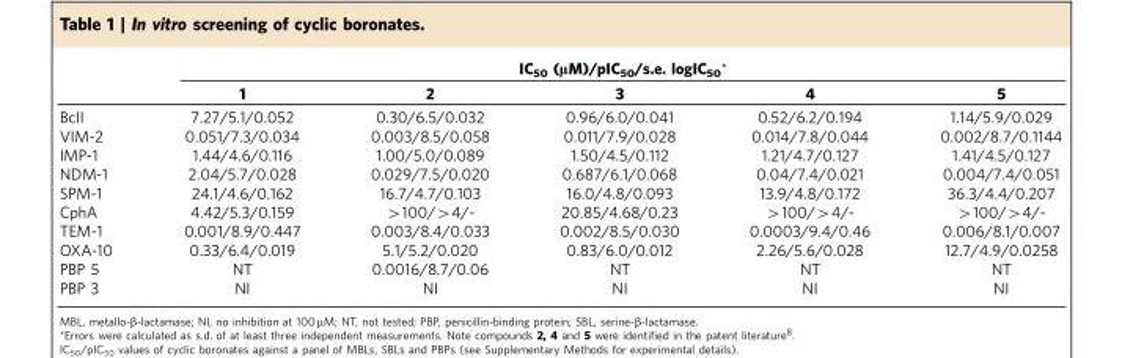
<table><thead><tr><td rowspan="2"></td><td colspan="5">IC<sub>50</sub> (μM)/pIC<sub>50</sub>/s.e. logIC<sub>50</sub>*</td></tr><tr><td>1</td><td>2</td><td>3</td><td>4</td><td>5</td></tr></thead><tbody><tr><td>BcII</td><td>7.27/5.1/0.052</td><td>0.30/6.5/0.032</td><td>0.96/6.0/0.041</td><td>0.52/6.2/0.194</td><td>1.14/5.9/0.029</td></tr><tr><td>VIM-2</td><td>0.051/7.3/0.034</td><td>0.003/8.5/0.058</td><td>0.011/7.9/0.028</td><td>0.014/7.8/0.044</td><td>0.002/8.7/0.1144</td></tr><tr><td>IMP-1</td><td>1.44/4.6/0.116</td><td>1.00/5.0/0.089</td><td>1.50/4.5/0.112</td><td>1.21/4.7/0.127</td><td>1.41/4.5/0.127</td></tr><tr><td>NDM-1</td><td>2.04/5.7/0.028</td><td>0.029/7.5/0.020</td><td>0.687/6.1/0.068</td><td>0.04/7.4/0.021</td><td>0.004/7.4/0.051</td></tr><tr><td>SPM-1</td><td>24.1/4.6/0.162</td><td>16.7/4.7/0.103</td><td>16.0/4.8/0.093</td><td>13.9/4.8/0.172</td><td>36.3/4.4/0.207</td></tr><tr><td>CphA</td><td>4.42/5.3/0.159</td><td>&gt;100/&gt;4/-</td><td>20.85/4.68/0.23</td><td>&gt;100/&gt;4/-</td><td>&gt;100/&gt;4/-</td></tr><tr><td>TEM-1</td><td>0.001/8.9/0.447</td><td>0.003/8.4/0.033</td><td>0.002/8.5/0.030</td><td>0.0003/9.4/0.46</td><td>0.006/8.1/0.007</td></tr><tr><td>OXA-10</td><td>0.33/6.4/0.019</td><td>5.1/5.2/0.020</td><td>0.83/6.0/0.012</td><td>2.26/5.6/0.028</td><td>12.7/4.9/0.0258</td></tr><tr><td>PBP 5</td><td>NT</td><td>0.0016/8.7/0.06</td><td>NT</td><td>NT</td><td>NT</td></tr><tr><td>PBP 3</td><td>NI</td><td>NI</td><td>NI</td><td>NI</td><td>NI</td></tr></tbody></table>